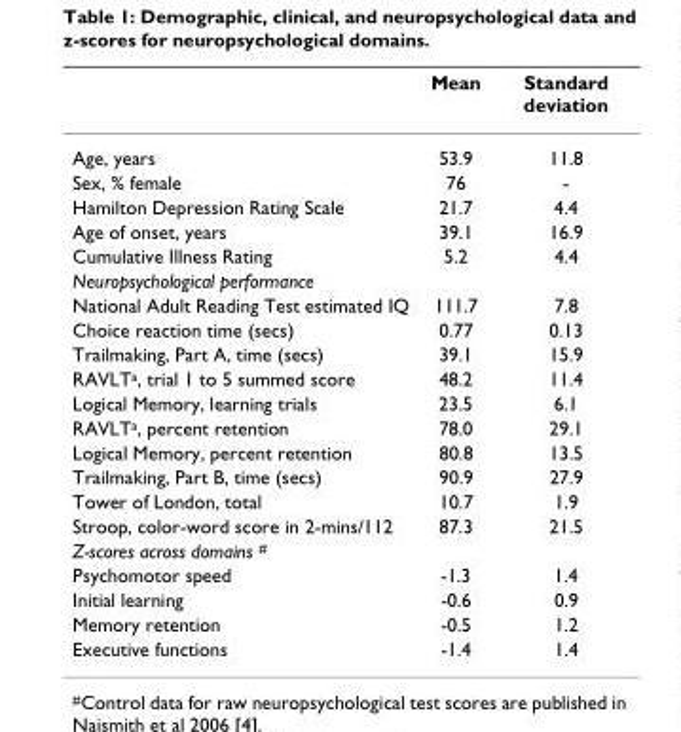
<table><thead><tr><td></td><td>Mean</td><td>Standard deviation</td></tr></thead><tbody><tr><td>Age, years</td><td>53.9</td><td>11.8</td></tr><tr><td>Sex, % female</td><td>76</td><td>-</td></tr><tr><td>Hamilton Depression Rating Scale</td><td>21.7</td><td>4.4</td></tr><tr><td>Age of onset, years</td><td>39.1</td><td>16.9</td></tr><tr><td>Cumulative Illness Rating</td><td>5.2</td><td>4.4</td></tr><tr><td colspan="3">Neuropsychological performance</td></tr><tr><td>National Adult Reading Test estimated IQ</td><td>111.7</td><td>7.8</td></tr><tr><td>Choice reaction time (secs)</td><td>0.77</td><td>0.13</td></tr><tr><td>Trailmaking, Part A, time (secs)</td><td>39.1</td><td>15.9</td></tr><tr><td>RAVLT<sup>a</sup>, trial 1 to 5 summed score</td><td>48.2</td><td>11.4</td></tr><tr><td>Logical Memory, learning trials</td><td>23.5</td><td>6.1</td></tr><tr><td>RAVLT<sup>a</sup>, percent retention</td><td>78.0</td><td>29.1</td></tr><tr><td>Logical Memory, percent retention</td><td>80.8</td><td>13.5</td></tr><tr><td>Trailmaking, Part B, time (secs)</td><td>90.9</td><td>27.9</td></tr><tr><td>Tower of London, total</td><td>10.7</td><td>1.9</td></tr><tr><td>Stroop, color-word score in 2-mins/112</td><td>87.3</td><td>21.5</td></tr><tr><td colspan="3">Z-scores across domains <sup>#</sup></td></tr><tr><td>Psychomotor speed</td><td>-1.3</td><td>1.4</td></tr><tr><td>Initial learning</td><td>-0.6</td><td>0.9</td></tr><tr><td>Memory retention</td><td>-0.5</td><td>1.2</td></tr><tr><td>Executive functions</td><td>-1.4</td><td>1.4</td></tr></tbody></table>